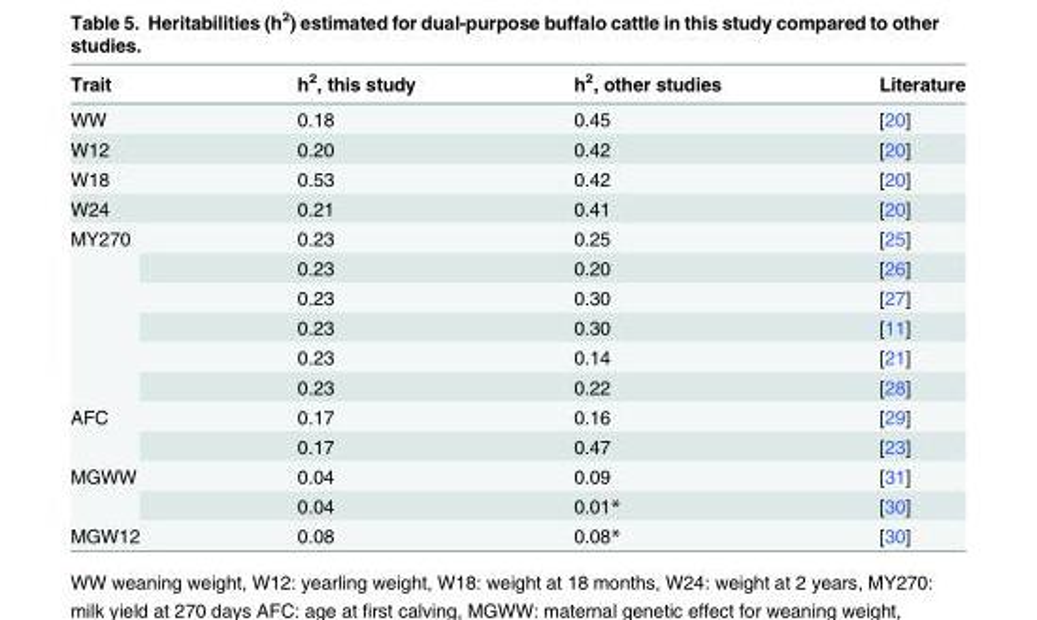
<table><thead><tr><td>Trait</td><td>h<sup>2</sup>, this study</td><td>h<sup>2</sup>, other studies</td><td>Literature</td></tr></thead><tbody><tr><td>WW</td><td>0.18</td><td>0.45</td><td>[20]</td></tr><tr><td>W12</td><td>0.20</td><td>0.42</td><td>[20]</td></tr><tr><td>W18</td><td>0.53</td><td>0.42</td><td>[20]</td></tr><tr><td>W24</td><td>0.21</td><td>0.41</td><td>[20]</td></tr><tr><td rowspan="6">MY270</td><td>0.23</td><td>0.25</td><td>[25]</td></tr><tr><td>0.23</td><td>0.20</td><td>[26]</td></tr><tr><td>0.23</td><td>0.30</td><td>[27]</td></tr><tr><td>0.23</td><td>0.30</td><td>[11]</td></tr><tr><td>0.23</td><td>0.14</td><td>[21]</td></tr><tr><td>0.23</td><td>0.22</td><td>[28]</td></tr><tr><td rowspan="2">AFC</td><td>0.17</td><td>0.16</td><td>[29]</td></tr><tr><td>0.17</td><td>0.47</td><td>[23]</td></tr><tr><td rowspan="2">MGWW</td><td>0.04</td><td>0.09</td><td>[31]</td></tr><tr><td>0.04</td><td>0.01*</td><td>[30]</td></tr><tr><td>MGW12</td><td>0.08</td><td>0.08*</td><td>[30]</td></tr></tbody></table>